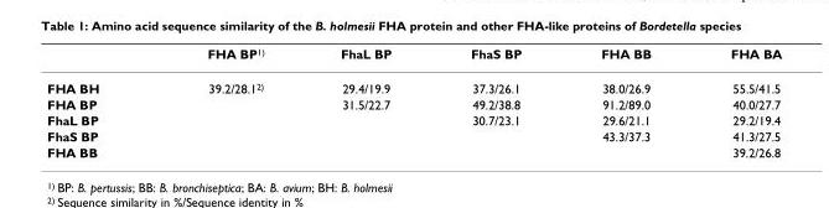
<table><thead><tr><td></td><td>FHA BP<sup>1)</sup></td><td>FhaL BP</td><td>FhaS BP</td><td>FHA BB</td><td>FHA BA</td></tr></thead><tbody><tr><td>FHA BH</td><td>39.2/28.1<sup>2)</sup></td><td>29.4/19.9</td><td>37.3/26.1</td><td>38.0/26.9</td><td>55.5/41.5</td></tr><tr><td>FHA BP</td><td></td><td>31.5/22.7</td><td>49.2/38.8</td><td>91.2/89.0</td><td>40.0/27.7</td></tr><tr><td>FhaL BP</td><td></td><td></td><td>30.7/23.1</td><td>29.6/21.1</td><td>29.2/19.4</td></tr><tr><td>FhaS BP</td><td></td><td></td><td></td><td>43.3/37.3</td><td>41.3/27.5</td></tr><tr><td>FHA BB</td><td></td><td></td><td></td><td></td><td>39.2/26.8</td></tr></tbody></table>